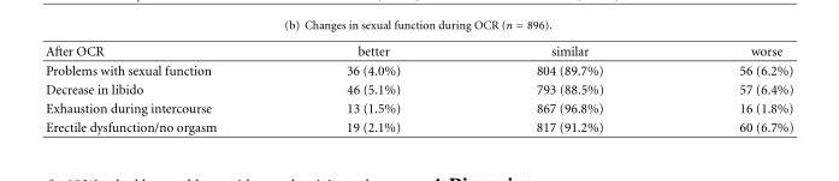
<table><thead><tr><td>After OCR</td><td>better</td><td>similar</td><td>worse</td></tr></thead><tbody><tr><td>Problems with sexual function</td><td>36 (4.0%)</td><td>804 (89.7%)</td><td>56 (6.2%)</td></tr><tr><td>Decrease in libido</td><td>46 (5.1%)</td><td>793 (88.5%)</td><td>57 (6.4%)</td></tr><tr><td>Exhaustion during intercourse</td><td>13 (1.5%)</td><td>867 (96.8%)</td><td>16 (1.8%)</td></tr><tr><td>Erectile dysfunction/no orgasm</td><td>19 (2.1%)</td><td>817 (91.2%)</td><td>60 (6.7%)</td></tr></tbody></table>